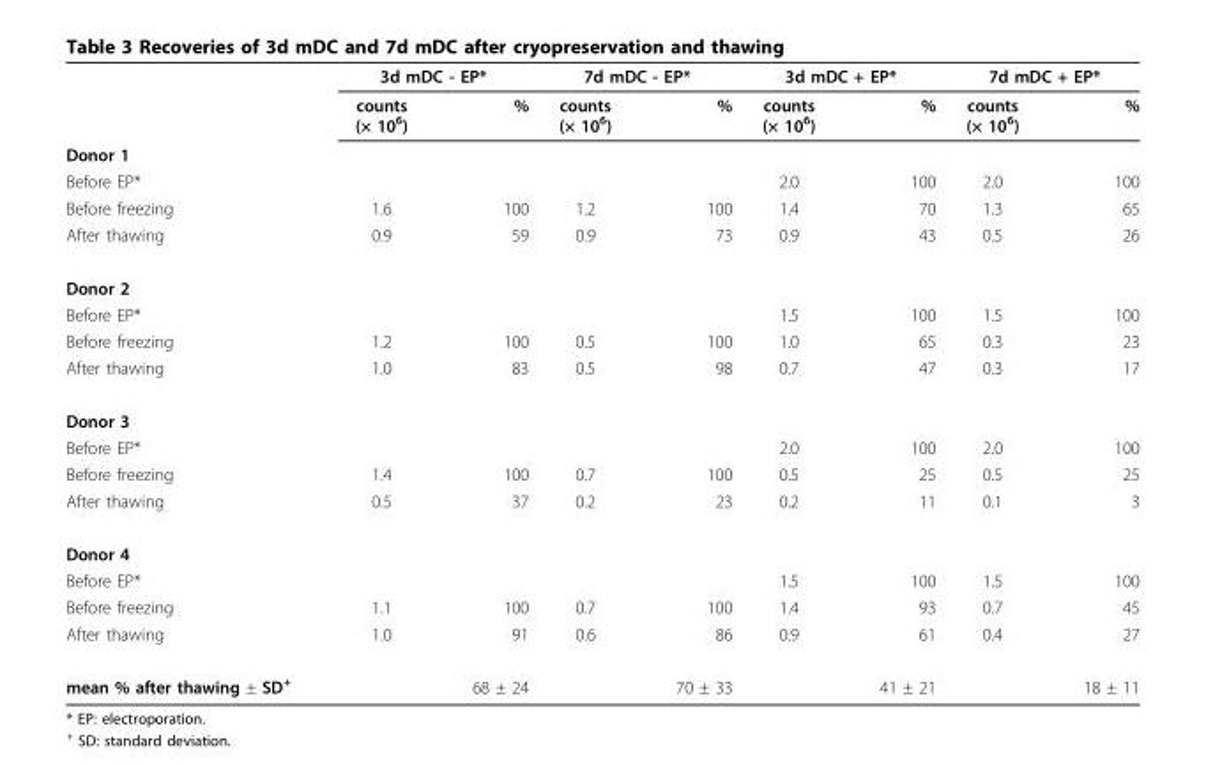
<table><thead><tr><td rowspan="2"></td><td colspan="2">3d mDC - EP*</td><td colspan="2">7d mDC - EP*</td><td colspan="2">3d mDC + EP*</td><td colspan="2">7d mDC + EP*</td></tr><tr><td>counts (× 10<sup>6</sup>)</td><td>%</td><td>counts (× 10<sup>6</sup>)</td><td>%</td><td>counts (× 10<sup>6</sup>)</td><td>%</td><td>counts (× 10<sup>6</sup>)</td><td>%</td></tr></thead><tbody><tr><td colspan="9">Donor 1</td></tr><tr><td>Before EP*</td><td></td><td></td><td></td><td></td><td>2.0</td><td>100</td><td>2.0</td><td>100</td></tr><tr><td>Before freezing</td><td>1.6</td><td>100</td><td>1.2</td><td>100</td><td>1.4</td><td>70</td><td>1.3</td><td>65</td></tr><tr><td>After thawing</td><td>0.9</td><td>59</td><td>0.9</td><td>73</td><td>0.9</td><td>43</td><td>0.5</td><td>26</td></tr><tr><td colspan="9">Donor 2</td></tr><tr><td>Before EP*</td><td></td><td></td><td></td><td></td><td>1.5</td><td>100</td><td>1.5</td><td>100</td></tr><tr><td>Before freezing</td><td>1.2</td><td>100</td><td>0.5</td><td>100</td><td>1.0</td><td>65</td><td>0.3</td><td>23</td></tr><tr><td>After thawing</td><td>1.0</td><td>83</td><td>0.5</td><td>98</td><td>0.7</td><td>47</td><td>0.3</td><td>17</td></tr><tr><td colspan="9">Donor 3</td></tr><tr><td>Before EP*</td><td></td><td></td><td></td><td></td><td>2.0</td><td>100</td><td>2.0</td><td>100</td></tr><tr><td>Before freezing</td><td>1.4</td><td>100</td><td>0.7</td><td>100</td><td>0.5</td><td>25</td><td>0.5</td><td>25</td></tr><tr><td>After thawing</td><td>0.5</td><td>37</td><td>0.2</td><td>23</td><td>0.2</td><td>11</td><td>0.1</td><td>3</td></tr><tr><td colspan="9">Donor 4</td></tr><tr><td>Before EP*</td><td></td><td></td><td></td><td></td><td>1.5</td><td>100</td><td>1.5</td><td>100</td></tr><tr><td>Before freezing</td><td>1.1</td><td>100</td><td>0.7</td><td>100</td><td>1.4</td><td>93</td><td>0.7</td><td>45</td></tr><tr><td>After thawing</td><td>1.0</td><td>91</td><td>0.6</td><td>86</td><td>0.9</td><td>61</td><td>0.4</td><td>27</td></tr><tr><td>mean % after thawing ± SD<sup>+</sup></td><td></td><td>68 ± 24</td><td></td><td>70 ± 33</td><td></td><td>41 ± 21</td><td></td><td>18 ± 11</td></tr></tbody></table>